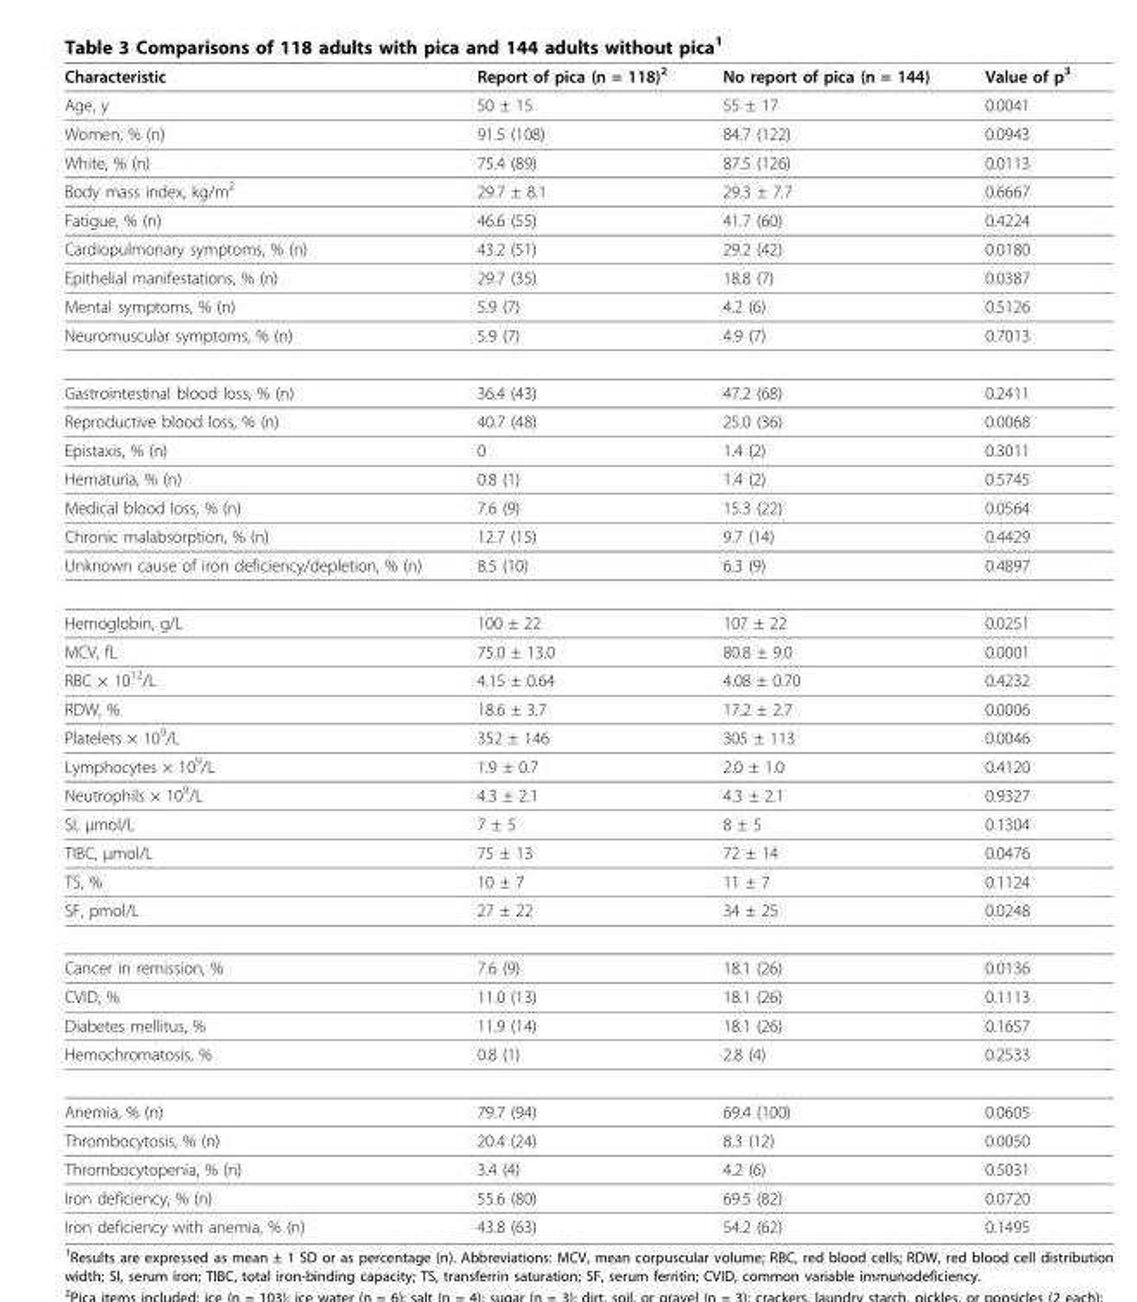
<table><thead><tr><td>Characteristic</td><td>Report of pica (n = 118)2</td><td>No report of pica (n = 144)</td><td>Value of p3</td></tr></thead><tbody><tr><td>Age, y</td><td>50 ± 15</td><td>55 ± 17</td><td>0.0041</td></tr><tr><td>Women, % (n)</td><td>91.5 (108)</td><td>84.7 (122)</td><td>0.0943</td></tr><tr><td>White, % (n)</td><td>75.4 (89)</td><td>87.5 (126)</td><td>0.0113</td></tr><tr><td>Body mass index, kg/m2</td><td>29.7 ± 8.1</td><td>29.3 ± 7.7</td><td>0.6667</td></tr><tr><td>Fatigue, % (n)</td><td>46.6 (55)</td><td>41.7 (60)</td><td>0.4224</td></tr><tr><td>Cardiopulmonary symptoms, % (n)</td><td>43.2 (51)</td><td>29.2 (42)</td><td>0.0180</td></tr><tr><td>Epithelial manifestations, % (n)</td><td>29.7 (35)</td><td>18.8 (7)</td><td>0.0387</td></tr><tr><td>Mental symptoms, % (n)</td><td>5.9 (7)</td><td>4.2 (6)</td><td>0.5126</td></tr><tr><td>Neuromuscular symptoms, % (n)</td><td>5.9 (7)</td><td>4.9 (7)</td><td>0.7013</td></tr><tr><td>Gastrointestinal blood loss, % (n)</td><td>36.4 (43)</td><td>47.2 (68)</td><td>0.2411</td></tr><tr><td>Reproductive blood loss, % (n)</td><td>40.7 (48)</td><td>25.0 (36)</td><td>0.0068</td></tr><tr><td>Epistaxis, % (n)</td><td>0</td><td>1.4 (2)</td><td>0.3011</td></tr><tr><td>Hematuria, % (n)</td><td>0.8 (1)</td><td>1.4 (2)</td><td>0.5745</td></tr><tr><td>Medical blood loss, % (n)</td><td>7.6 (9)</td><td>15.3 (22)</td><td>0.0564</td></tr><tr><td>Chronic malabsorption, % (n)</td><td>12.7 (15)</td><td>9.7 (14)</td><td>0.4429</td></tr><tr><td>Unknown cause of iron deficiency/depletion, % (n)</td><td>8.5 (10)</td><td>6.3 (9)</td><td>0.4897</td></tr><tr><td>Hemoglobin, g/L</td><td>100 ± 22</td><td>107 ± 22</td><td>0.0251</td></tr><tr><td>MCV, fL</td><td>75.0 ± 13.0</td><td>80.8 ± 9.0</td><td>0.0001</td></tr><tr><td>RBC × 1012/L</td><td>4.15 ± 0.64</td><td>4.08 ± 0.70</td><td>0.4232</td></tr><tr><td>RDW, %</td><td>18.6 ± 3.7</td><td>17.2 ± 2.7</td><td>0.0006</td></tr><tr><td>Platelets × 109/L</td><td>352 ± 146</td><td>305 ± 113</td><td>0.0046</td></tr><tr><td>Lymphocytes × 109/L</td><td>1.9 ± 0.7</td><td>2.0 ± 1.0</td><td>0.4120</td></tr><tr><td>Neutrophils × 109/L</td><td>4.3 ± 2.1</td><td>4.3 ± 2.1</td><td>0.9327</td></tr><tr><td>SI, μmol/L</td><td>7 ± 5</td><td>8 ± 5</td><td>0.1304</td></tr><tr><td>TIBC, μmol/L</td><td>75 ± 13</td><td>72 ± 14</td><td>0.0476</td></tr><tr><td>TS, %</td><td>10 ± 7</td><td>11 ± 7</td><td>0.1124</td></tr><tr><td>SF, pmol/L</td><td>27 ± 22</td><td>34 ± 25</td><td>0.0248</td></tr><tr><td>Cancer in remission, %</td><td>7.6 (9)</td><td>18.1 (26)</td><td>0.0136</td></tr><tr><td>CVID, %</td><td>11.0 (13)</td><td>18.1 (26)</td><td>0.1113</td></tr><tr><td>Diabetes mellitus, %</td><td>11.9 (14)</td><td>18.1 (26)</td><td>0.1657</td></tr><tr><td>Hemochromatosis, %</td><td>0.8 (1)</td><td>2.8 (4)</td><td>0.2533</td></tr><tr><td>Anemia, % (n)</td><td>79.7 (94)</td><td>69.4 (100)</td><td>0.0605</td></tr><tr><td>Thrombocytosis, % (n)</td><td>20.4 (24)</td><td>8.3 (12)</td><td>0.0050</td></tr><tr><td>Thrombocytopenia, % (n)</td><td>3.4 (4)</td><td>4.2 (6)</td><td>0.5031</td></tr><tr><td>Iron deficiency, % (n)</td><td>55.6 (80)</td><td>69.5 (82)</td><td>0.0720</td></tr><tr><td>Iron deficiency with anemia, % (n)</td><td>43.8 (63)</td><td>54.2 (62)</td><td>0.1495</td></tr></tbody></table>